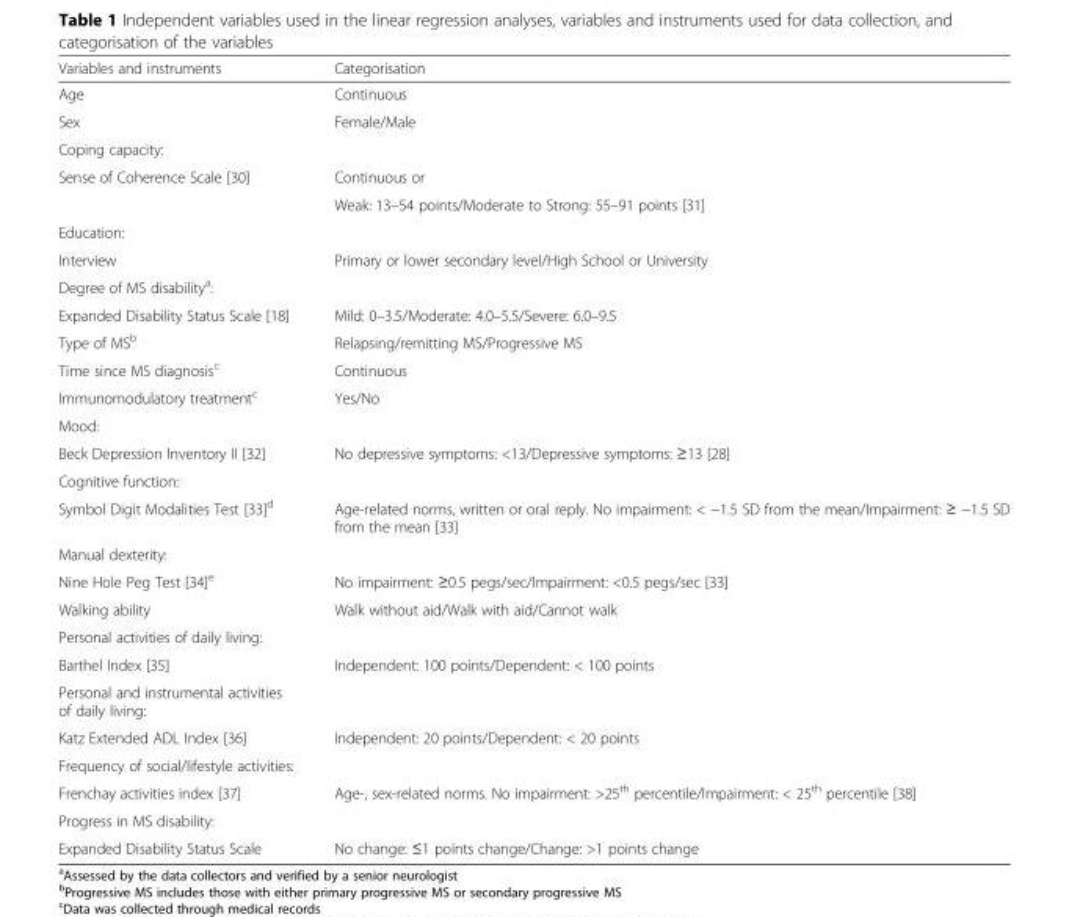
<table><thead><tr><td>Variables and instruments</td><td>Categorisation</td></tr></thead><tbody><tr><td>Age</td><td>Continuous</td></tr><tr><td>Sex</td><td>Female/Male</td></tr><tr><td colspan="2">Coping capacity:</td></tr><tr><td rowspan="2">Sense of Coherence Scale [30]</td><td>Continuous or</td></tr><tr><td>Weak: 13–54 points/Moderate to Strong: 55–91 points [31]</td></tr><tr><td colspan="2">Education:</td></tr><tr><td>Interview</td><td>Primary or lower secondary level/High School or University</td></tr><tr><td colspan="2">Degree of MS disability<sup>a</sup>:</td></tr><tr><td>Expanded Disability Status Scale [18]</td><td>Mild: 0–3.5/Moderate: 4.0–5.5/Severe: 6.0–9.5</td></tr><tr><td>Type of MS<sup>b</sup></td><td>Relapsing/remitting MS/Progressive MS</td></tr><tr><td>Time since MS diagnosis<sup>c</sup></td><td>Continuous</td></tr><tr><td>Immunomodulatory treatment<sup>c</sup></td><td>Yes/No</td></tr><tr><td colspan="2">Mood:</td></tr><tr><td>Beck Depression Inventory II [32]</td><td>No depressive symptoms: &lt;13/Depressive symptoms: ≥13 [28]</td></tr><tr><td colspan="2">Cognitive function:</td></tr><tr><td>Symbol Digit Modalities Test [33]<sup>d</sup></td><td>Age-related norms, written or oral reply. No impairment: &lt; −1.5 SD from the mean/Impairment: ≥ −1.5 SD from the mean [33]</td></tr><tr><td colspan="2">Manual dexterity:</td></tr><tr><td>Nine Hole Peg Test [34]<sup>e</sup></td><td>No impairment: ≥0.5 pegs/sec/Impairment: &lt;0.5 pegs/sec [33]</td></tr><tr><td>Walking ability</td><td>Walk without aid/Walk with aid/Cannot walk</td></tr><tr><td colspan="2">Personal activities of daily living:</td></tr><tr><td>Barthel Index [35]</td><td>Independent: 100 points/Dependent: &lt; 100 points</td></tr><tr><td colspan="2">Personal and instrumental activities of daily living:</td></tr><tr><td>Katz Extended ADL Index [36]</td><td>Independent: 20 points/Dependent: &lt; 20 points</td></tr><tr><td colspan="2">Frequency of social/lifestyle activities:</td></tr><tr><td>Frenchay activities index [37]</td><td>Age-, sex-related norms. No impairment: &gt;25<sup>th</sup> percentile/Impairment: &lt; 25<sup>th</sup> percentile [38]</td></tr><tr><td colspan="2">Progress in MS disability:</td></tr><tr><td>Expanded Disability Status Scale</td><td>No change: ≤1 points change/Change: &gt;1 points change</td></tr></tbody></table>